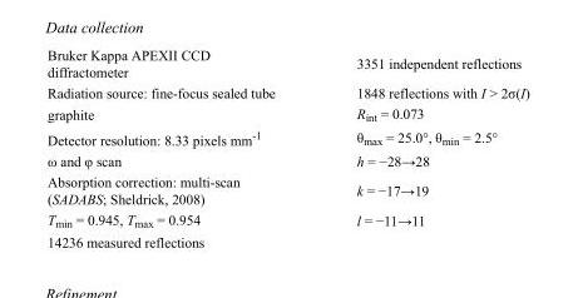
<table><tbody><tr><td>Bruker Kappa APEXII CCD diffractometer</td><td>3351 independent reflections</td></tr><tr><td>Radiation source: fine-focus sealed tube</td><td>1848 reflections with I &gt; 2σ(I)</td></tr><tr><td>graphite</td><td>R<sub>int</sub> = 0.073</td></tr><tr><td>Detector resolution: 8.33 pixels mm<sup>-1</sup></td><td>θ<sub>max</sub> = 25.0°, θ<sub>min</sub> = 2.5°</td></tr><tr><td>ω and φ scan</td><td>h = −28→28</td></tr><tr><td>Absorption correction: multi-scan (SADABS; Sheldrick, 2008)</td><td>k = −17→19</td></tr><tr><td>T<sub>min</sub> = 0.945, T<sub>max</sub> = 0.954</td><td>l = −11→11</td></tr><tr><td>14236 measured reflections</td><td></td></tr></tbody></table>